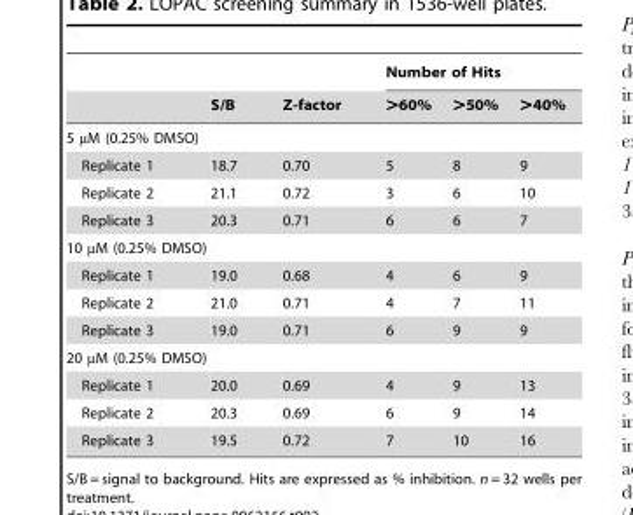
<table><thead><tr><td rowspan="2"></td><td rowspan="2">S/B</td><td rowspan="2">Z-factor</td><td colspan="3">Number of Hits</td></tr><tr><td>&gt;60%</td><td>&gt;50%</td><td>&gt;40%</td></tr></thead><tbody><tr><td colspan="6">5 µM (0.25% DMSO)</td></tr><tr><td>Replicate 1</td><td>18.7</td><td>0.70</td><td>5</td><td>8</td><td>9</td></tr><tr><td>Replicate 2</td><td>21.1</td><td>0.72</td><td>3</td><td>6</td><td>10</td></tr><tr><td>Replicate 3</td><td>20.3</td><td>0.71</td><td>6</td><td>6</td><td>7</td></tr><tr><td colspan="6">10 µM (0.25% DMSO)</td></tr><tr><td>Replicate 1</td><td>19.0</td><td>0.68</td><td>4</td><td>6</td><td>9</td></tr><tr><td>Replicate 2</td><td>21.0</td><td>0.71</td><td>4</td><td>7</td><td>11</td></tr><tr><td>Replicate 3</td><td>19.0</td><td>0.71</td><td>6</td><td>9</td><td>9</td></tr><tr><td colspan="6">20 µM (0.25% DMSO)</td></tr><tr><td>Replicate 1</td><td>20.0</td><td>0.69</td><td>4</td><td>9</td><td>13</td></tr><tr><td>Replicate 2</td><td>20.3</td><td>0.69</td><td>6</td><td>9</td><td>14</td></tr><tr><td>Replicate 3</td><td>19.5</td><td>0.72</td><td>7</td><td>10</td><td>16</td></tr></tbody></table>